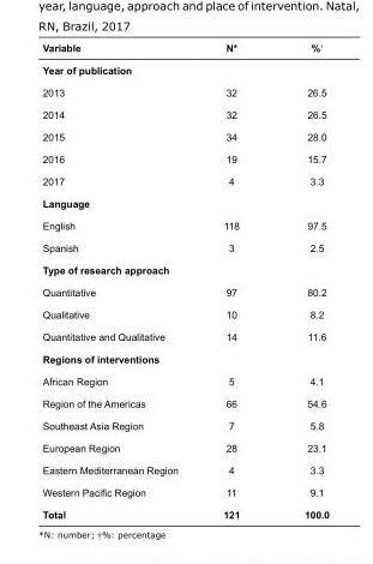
<table><tbody><tr><td>Variable</td><td>N*</td><td>%<sup>†</sup></td></tr><tr><td colspan="3">Year of publication</td></tr><tr><td>2013</td><td>32</td><td>26.5</td></tr><tr><td>2014</td><td>32</td><td>26.5</td></tr><tr><td>2015</td><td>34</td><td>28.0</td></tr><tr><td>2016</td><td>19</td><td>15.7</td></tr><tr><td>2017</td><td>4</td><td>3.3</td></tr><tr><td colspan="3">Language</td></tr><tr><td>English</td><td>118</td><td>97.5</td></tr><tr><td>Spanish</td><td>3</td><td>2.5</td></tr><tr><td colspan="3">Type of research approach</td></tr><tr><td>Quantitative</td><td>97</td><td>80.2</td></tr><tr><td>Qualitative</td><td>10</td><td>8.2</td></tr><tr><td>Quantitative and Qualitative</td><td>14</td><td>11.6</td></tr><tr><td colspan="3">Regions of interventions</td></tr><tr><td>African Region</td><td>5</td><td>4.1</td></tr><tr><td>Region of the Americas</td><td>66</td><td>54.6</td></tr><tr><td>Southeast Asia Region</td><td>7</td><td>5.8</td></tr><tr><td>European Region</td><td>28</td><td>23.1</td></tr><tr><td>Eastern Mediterranean Region</td><td>4</td><td>3.3</td></tr><tr><td>Western Pacific Region</td><td>11</td><td>9.1</td></tr><tr><td>Total</td><td>121</td><td>100.0</td></tr></tbody></table>